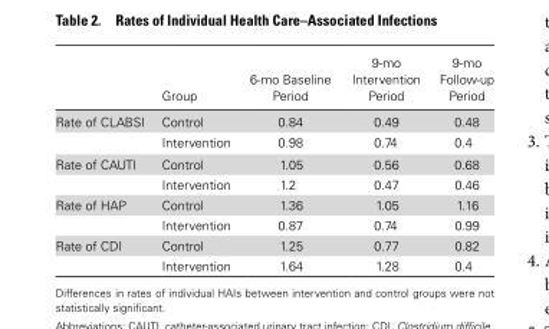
<table><thead><tr><td></td><td>Group</td><td>6-mo Baseline Period</td><td>9-mo Intervention Period</td><td>9-mo Follow-up Period</td></tr></thead><tbody><tr><td rowspan="2">Rate of CLABSI</td><td>Control</td><td>0.84</td><td>0.49</td><td>0.48</td></tr><tr><td>Intervention</td><td>0.98</td><td>0.74</td><td>0.4</td></tr><tr><td rowspan="2">Rate of CAUTI</td><td>Control</td><td>1.05</td><td>0.56</td><td>0.68</td></tr><tr><td>Intervention</td><td>1.2</td><td>0.47</td><td>0.46</td></tr><tr><td rowspan="2">Rate of HAP</td><td>Control</td><td>1.36</td><td>1.05</td><td>1.16</td></tr><tr><td>Intervention</td><td>0.87</td><td>0.74</td><td>0.99</td></tr><tr><td rowspan="2">Rate of CDI</td><td>Control</td><td>1.25</td><td>0.77</td><td>0.82</td></tr><tr><td>Intervention</td><td>1.64</td><td>1.28</td><td>0.4</td></tr></tbody></table>